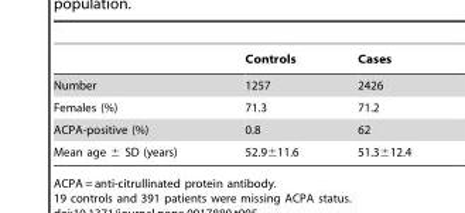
<table><thead><tr><td></td><td>Controls</td><td>Cases</td></tr></thead><tbody><tr><td>Number</td><td>1257</td><td>2426</td></tr><tr><td>Females (%)</td><td>71.3</td><td>71.2</td></tr><tr><td>ACPA-positive (%)</td><td>0.8</td><td>62</td></tr><tr><td>Mean age ± SD (years)</td><td>52.9±11.6</td><td>51.3±12.4</td></tr></tbody></table>